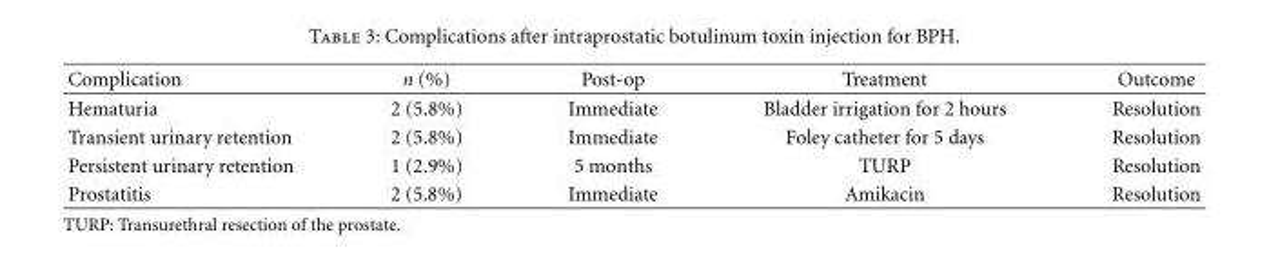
<table><thead><tr><td>Complication</td><td>n (%)</td><td>Post-op</td><td>Treatment</td><td>Outcome</td></tr></thead><tbody><tr><td>Hematuria</td><td>2 (5.8%)</td><td>Immediate</td><td>Bladder irrigation for 2 hours</td><td>Resolution</td></tr><tr><td>Transient urinary retention</td><td>2 (5.8%)</td><td>Immediate</td><td>Foley catheter for 5 days</td><td>Resolution</td></tr><tr><td>Persistent urinary retention</td><td>1 (2.9%)</td><td>5 months</td><td>TURP</td><td>Resolution</td></tr><tr><td>Prostatitis</td><td>2 (5.8%)</td><td>Immediate</td><td>Amikacin</td><td>Resolution</td></tr></tbody></table>